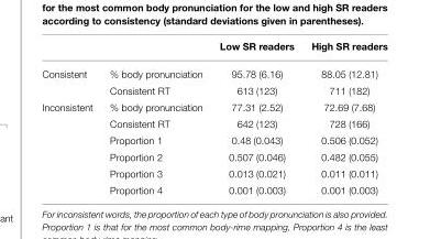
<table><thead><tr><td></td><td></td><td>Low SR readers</td><td>High SR readers</td></tr></thead><tbody><tr><td rowspan="2">Consistent</td><td>% body pronunciation</td><td>95.78 (6.16)</td><td>88.05 (12.81)</td></tr><tr><td>Consistent RT</td><td>613 (123)</td><td>711 (182)</td></tr><tr><td rowspan="6">Inconsistent</td><td>% body pronunciation</td><td>77.31 (2.52)</td><td>72.69 (7.68)</td></tr><tr><td>Consistent RT</td><td>642 (123)</td><td>728 (166)</td></tr><tr><td>Proportion 1</td><td>0.48 (0.043)</td><td>0.506 (0.052)</td></tr><tr><td>Proportion 2</td><td>0.507 (0.046)</td><td>0.482 (0.055)</td></tr><tr><td>Proportion 3</td><td>0.013 (0.021)</td><td>0.011 (0.011)</td></tr><tr><td>Proportion 4</td><td>0.001 (0.003)</td><td>0.001 (0.003)</td></tr></tbody></table>